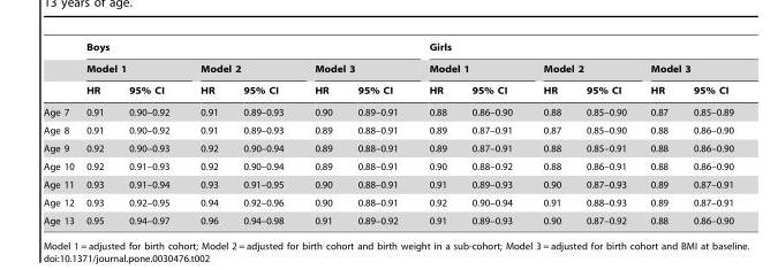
<table><thead><tr><td rowspan="3"></td><td colspan="6">Boys</td><td colspan="6">Girls</td></tr><tr><td colspan="2">Model 1</td><td colspan="2">Model 2</td><td colspan="2">Model 3</td><td colspan="2">Model 1</td><td colspan="2">Model 2</td><td colspan="2">Model 3</td></tr><tr><td>HR</td><td>95% CI</td><td>HR</td><td>95% CI</td><td>HR</td><td>95% CI</td><td>HR</td><td>95% CI</td><td>HR</td><td>95% CI</td><td>HR</td><td>95% CI</td></tr></thead><tbody><tr><td>Age 7</td><td>0.91</td><td>0.90–0.92</td><td>0.91</td><td>0.89–0.93</td><td>0.90</td><td>0.89–0.91</td><td>0.88</td><td>0.86–0.90</td><td>0.88</td><td>0.85–0.90</td><td>0.87</td><td>0.85–0.89</td></tr><tr><td>Age 8</td><td>0.91</td><td>0.90–0.92</td><td>0.91</td><td>0.89–0.93</td><td>0.89</td><td>0.88–0.91</td><td>0.89</td><td>0.87–0.91</td><td>0.87</td><td>0.85–0.90</td><td>0.88</td><td>0.86–0.90</td></tr><tr><td>Age 9</td><td>0.92</td><td>0.90–0.93</td><td>0.92</td><td>0.90–0.94</td><td>0.89</td><td>0.88–0.91</td><td>0.89</td><td>0.87–0.91</td><td>0.88</td><td>0.85–0.91</td><td>0.88</td><td>0.86–0.90</td></tr><tr><td>Age 10</td><td>0.92</td><td>0.91–0.93</td><td>0.92</td><td>0.90–0.94</td><td>0.89</td><td>0.88–0.91</td><td>0.90</td><td>0.88–0.92</td><td>0.88</td><td>0.86–0.91</td><td>0.88</td><td>0.86–0.90</td></tr><tr><td>Age 11</td><td>0.93</td><td>0.91–0.94</td><td>0.93</td><td>0.91–0.95</td><td>0.90</td><td>0.88–0.91</td><td>0.91</td><td>0.89–0.93</td><td>0.90</td><td>0.87–0.93</td><td>0.89</td><td>0.87–0.91</td></tr><tr><td>Age 12</td><td>0.93</td><td>0.92–0.95</td><td>0.94</td><td>0.92–0.96</td><td>0.90</td><td>0.88–0.91</td><td>0.92</td><td>0.90–0.94</td><td>0.91</td><td>0.88–0.93</td><td>0.89</td><td>0.87–0.91</td></tr><tr><td>Age 13</td><td>0.95</td><td>0.94–0.97</td><td>0.96</td><td>0.94–0.98</td><td>0.91</td><td>0.89–0.92</td><td>0.91</td><td>0.89–0.93</td><td>0.90</td><td>0.87–0.92</td><td>0.88</td><td>0.86–0.90</td></tr></tbody></table>